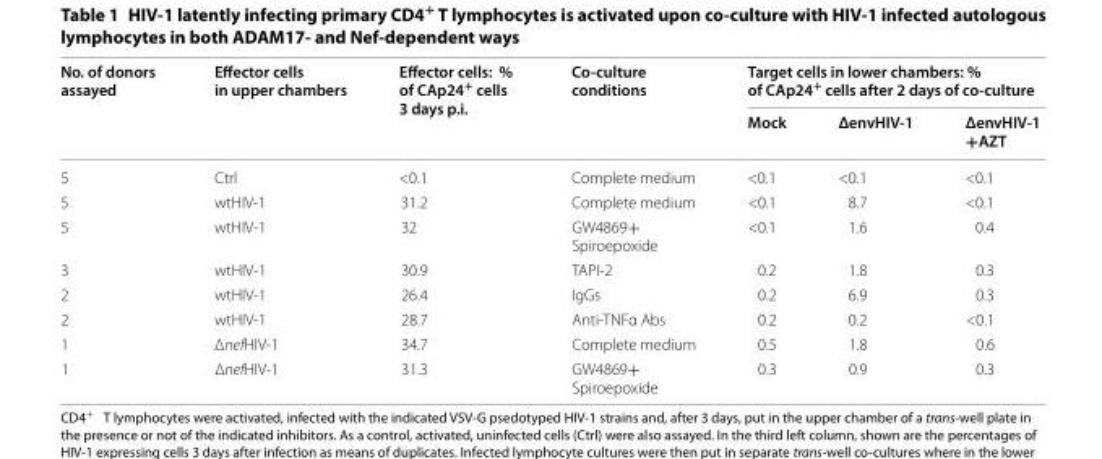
<table><thead><tr><td rowspan="2">No. of donors assayed</td><td rowspan="2">Effector cells in upper chambers</td><td rowspan="2">Effector cells: % of CAp24<sup>+</sup> cells 3 days p.i.</td><td rowspan="2">Co‑culture conditions</td><td colspan="3">Target cells in lower chambers: % of CAp24<sup>+</sup> cells after 2 days of co‑culture</td></tr><tr><td>Mock</td><td>ΔenvHIV‑1</td><td>ΔenvHIV‑1 +AZT</td></tr></thead><tbody><tr><td>5</td><td>Ctrl</td><td>&lt;0.1</td><td>Complete medium</td><td>&lt;0.1</td><td>&lt;0.1</td><td>&lt;0.1</td></tr><tr><td>5</td><td>wtHIV-1</td><td>31.2</td><td>Complete medium</td><td>&lt;0.1</td><td>8.7</td><td>&lt;0.1</td></tr><tr><td>5</td><td>wtHIV-1</td><td>32</td><td>GW4869+ Spiroepoxide</td><td>&lt;0.1</td><td>1.6</td><td>0.4</td></tr><tr><td>3</td><td>wtHIV-1</td><td>30.9</td><td>TAPI-2</td><td>0.2</td><td>1.8</td><td>0.3</td></tr><tr><td>2</td><td>wtHIV-1</td><td>26.4</td><td>IgGs</td><td>0.2</td><td>6.9</td><td>0.3</td></tr><tr><td>2</td><td>wtHIV-1</td><td>28.7</td><td>Anti-TNFα Abs</td><td>0.2</td><td>0.2</td><td>&lt;0.1</td></tr><tr><td>1</td><td>ΔnefHIV-1</td><td>34.7</td><td>Complete medium</td><td>0.5</td><td>1.8</td><td>0.6</td></tr><tr><td>1</td><td>ΔnefHIV-1</td><td>31.3</td><td>GW4869+ Spiroepoxide</td><td>0.3</td><td>0.9</td><td>0.3</td></tr></tbody></table>